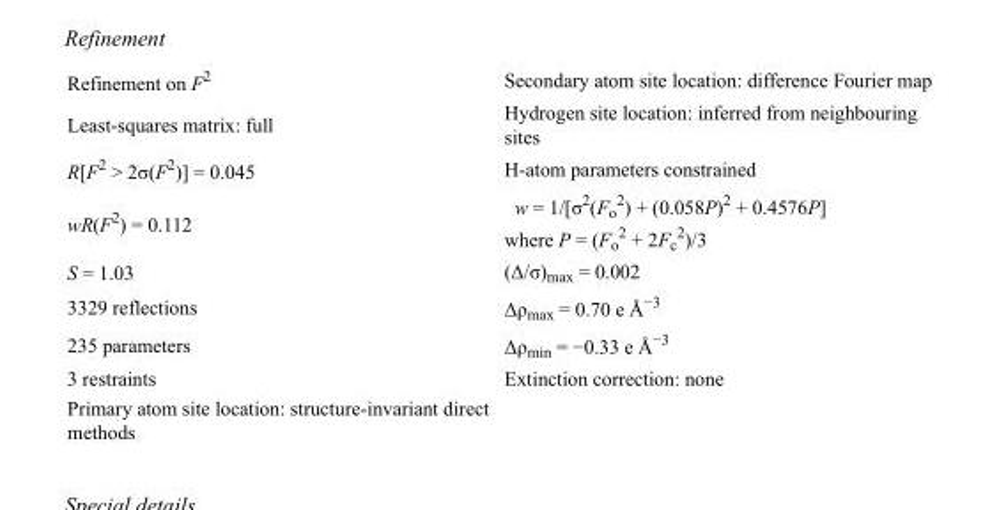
<table><tbody><tr><td>Refinement on F<sup>2</sup></td><td>Secondary atom site location: difference Fourier map</td></tr><tr><td>Least-squares matrix: full</td><td>Hydrogen site location: inferred from neighbouring sites</td></tr><tr><td>R[F<sup>2</sup> &gt; 2σ(F<sup>2</sup>)] = 0.045</td><td>H-atom parameters constrained</td></tr><tr><td>wR(F<sup>2</sup>) = 0.112</td><td>w = 1/[σ<sup>2</sup>(F<sub>o</sub> <sup>2</sup>) + (0.058P)<sup>2</sup> + 0.4576P] where P = (F<sub>o</sub> <sup>2</sup> + 2F<sub>c</sub> <sup>2</sup>)/3</td></tr><tr><td>S = 1.03</td><td>(Δ/σ)<sub>max</sub> = 0.002</td></tr><tr><td>3329 reflections</td><td>Δρ<sub>max</sub> = 0.70 e Å<sup>−3</sup></td></tr><tr><td>235 parameters</td><td>Δρ<sub>min</sub> = −0.33 e Å<sup>−3</sup></td></tr><tr><td>3 restraints</td><td>Extinction correction: none</td></tr><tr><td>Primary atom site location: structure-invariant direct methods</td><td></td></tr></tbody></table>